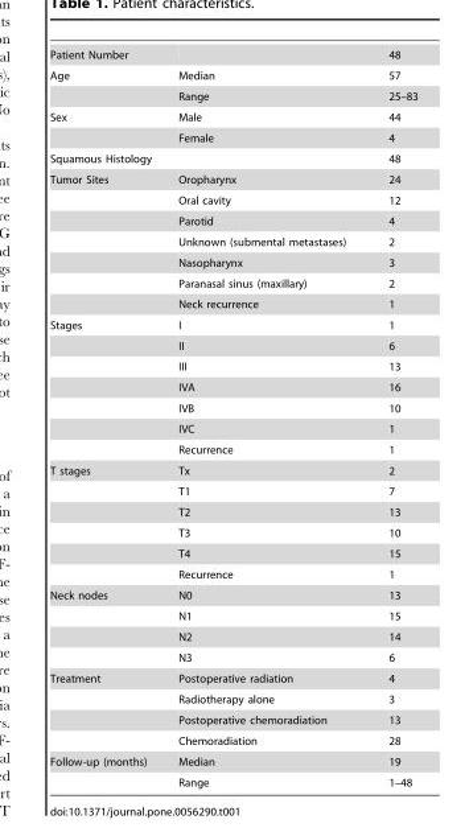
<table><tbody><tr><td>Patient Number</td><td></td><td>48</td></tr><tr><td rowspan="2">Age</td><td>Median</td><td>57</td></tr><tr><td>Range</td><td>25–83</td></tr><tr><td rowspan="2">Sex</td><td>Male</td><td>44</td></tr><tr><td>Female</td><td>4</td></tr><tr><td>Squamous Histology</td><td></td><td>48</td></tr><tr><td rowspan="7">Tumor Sites</td><td>Oropharynx</td><td>24</td></tr><tr><td>Oral cavity</td><td>12</td></tr><tr><td>Parotid</td><td>4</td></tr><tr><td>Unknown (submental metastases)</td><td>2</td></tr><tr><td>Nasopharynx</td><td>3</td></tr><tr><td>Paranasal sinus (maxillary)</td><td>2</td></tr><tr><td>Neck recurrence</td><td>1</td></tr><tr><td rowspan="7">Stages</td><td>I</td><td>1</td></tr><tr><td>II</td><td>6</td></tr><tr><td>III</td><td>13</td></tr><tr><td>IVA</td><td>16</td></tr><tr><td>IVB</td><td>10</td></tr><tr><td>IVC</td><td>1</td></tr><tr><td>Recurrence</td><td>1</td></tr><tr><td rowspan="6">T stages</td><td>Tx</td><td>2</td></tr><tr><td>T1</td><td>7</td></tr><tr><td>T2</td><td>13</td></tr><tr><td>T3</td><td>10</td></tr><tr><td>T4</td><td>15</td></tr><tr><td>Recurrence</td><td>1</td></tr><tr><td rowspan="4">Neck nodes</td><td>N0</td><td>13</td></tr><tr><td>N1</td><td>15</td></tr><tr><td>N2</td><td>14</td></tr><tr><td>N3</td><td>6</td></tr><tr><td rowspan="4">Treatment</td><td>Postoperative radiation</td><td>4</td></tr><tr><td>Radiotherapy alone</td><td>3</td></tr><tr><td>Postoperative chemoradiation</td><td>13</td></tr><tr><td>Chemoradiation</td><td>28</td></tr><tr><td rowspan="2">Follow-up (months)</td><td>Median</td><td>19</td></tr><tr><td>Range</td><td>1–48</td></tr></tbody></table>